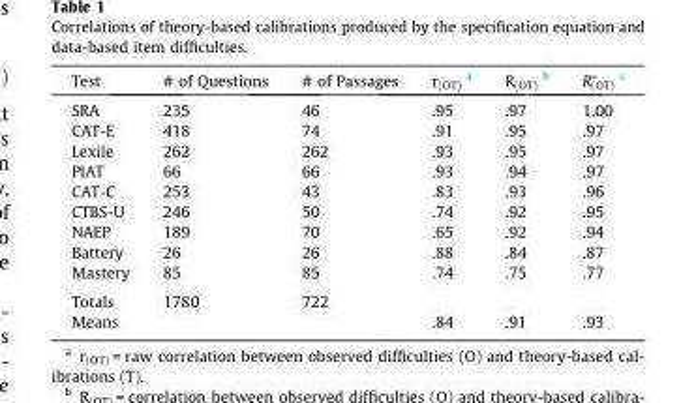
<table><thead><tr><td>Test</td><td># of Questions</td><td># of Passages</td><td>r<sub>(OT)</sub> <sup>a</sup></td><td>R<sub>(OT)</sub> <sup>b</sup></td><td>R⁄ (OT) c</td></tr></thead><tbody><tr><td>SRA</td><td>235</td><td>46</td><td>.95</td><td>.97</td><td>1.00</td></tr><tr><td>CAT-E</td><td>418</td><td>74</td><td>.91</td><td>.95</td><td>.97</td></tr><tr><td>Lexile</td><td>262</td><td>262</td><td>.93</td><td>.95</td><td>.97</td></tr><tr><td>PIAT</td><td>66</td><td>66</td><td>.93</td><td>.94</td><td>.97</td></tr><tr><td>CAT-C</td><td>253</td><td>43</td><td>.83</td><td>.93</td><td>.96</td></tr><tr><td>CTBS-U</td><td>246</td><td>50</td><td>.74</td><td>.92</td><td>.95</td></tr><tr><td>NAEP</td><td>189</td><td>70</td><td>.65</td><td>.92</td><td>.94</td></tr><tr><td>Battery</td><td>26</td><td>26</td><td>.88</td><td>.84</td><td>.87</td></tr><tr><td>Mastery</td><td>85</td><td>85</td><td>.74</td><td>.75</td><td>.77</td></tr><tr><td>Totals</td><td>1780</td><td>722</td><td></td><td></td><td></td></tr><tr><td>Means</td><td></td><td></td><td>.84</td><td>.91</td><td>.93</td></tr></tbody></table>